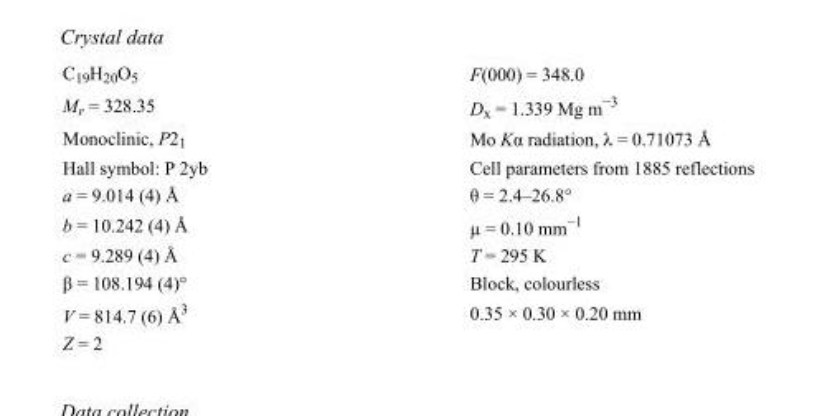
<table><tbody><tr><td>C<sub>19</sub>H<sub>20</sub>O<sub>5</sub></td><td>F(000) = 348.0</td></tr><tr><td>M<sub>r</sub> = 328.35</td><td>D<sub>x</sub> = 1.339 Mg m<sup>−3</sup></td></tr><tr><td>Monoclinic, P2<sub>1</sub></td><td>Mo Kα radiation, λ = 0.71073 Å</td></tr><tr><td>Hall symbol: P 2yb</td><td>Cell parameters from 1885 reflections</td></tr><tr><td>a = 9.014 (4) Å</td><td>θ = 2.4–26.8°</td></tr><tr><td>b = 10.242 (4) Å</td><td>µ = 0.10 mm<sup>−1</sup></td></tr><tr><td>c = 9.289 (4) Å</td><td>T = 295 K</td></tr><tr><td>β = 108.194 (4)°</td><td>Block, colourless</td></tr><tr><td>V = 814.7 (6) Å<sup>3</sup></td><td>0.35 × 0.30 × 0.20 mm</td></tr><tr><td>Z = 2</td><td></td></tr></tbody></table>